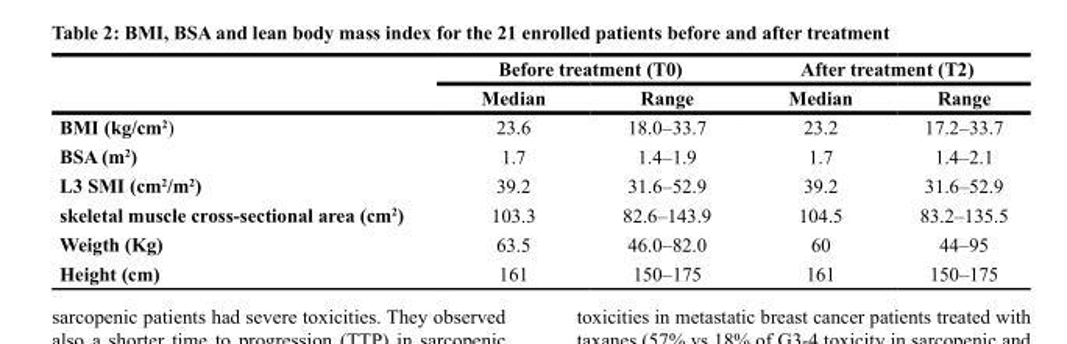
<table><thead><tr><td rowspan="2"></td><td colspan="2">Before treatment (T0)</td><td colspan="2">After treatment (T2)</td></tr><tr><td>Median</td><td>Range</td><td>Median</td><td>Range</td></tr></thead><tbody><tr><td>BMI (kg/cm<sup>2</sup>)</td><td>23.6</td><td>18.0–33.7</td><td>23.2</td><td>17.2–33.7</td></tr><tr><td>BSA (m<sup>2</sup>)</td><td>1.7</td><td>1.4–1.9</td><td>1.7</td><td>1.4–2.1</td></tr><tr><td>L3 SMI (cm<sup>2</sup>/m<sup>2</sup>)</td><td>39.2</td><td>31.6–52.9</td><td>39.2</td><td>31.6–52.9</td></tr><tr><td>skeletal muscle cross-sectional area (cm<sup>2</sup>)</td><td>103.3</td><td>82.6–143.9</td><td>104.5</td><td>83.2–135.5</td></tr><tr><td>Weigth (Kg)</td><td>63.5</td><td>46.0–82.0</td><td>60</td><td>44–95</td></tr><tr><td>Height (cm)</td><td>161</td><td>150–175</td><td>161</td><td>150–175</td></tr></tbody></table>